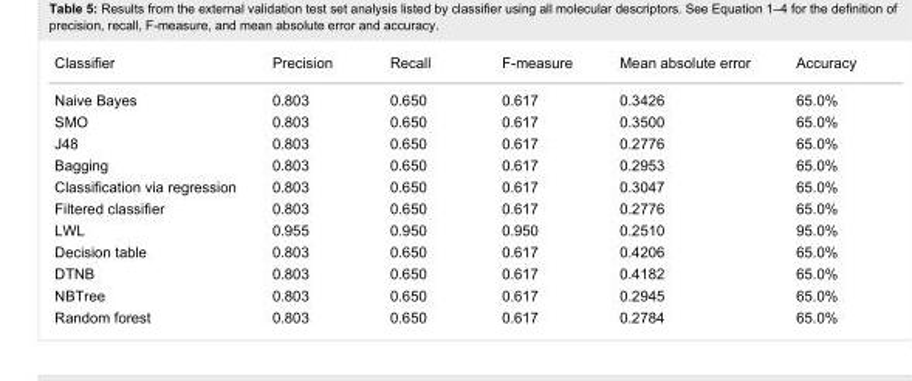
<table><tbody><tr><td>Classifier</td><td>Precision</td><td>Recall</td><td>F-measure</td><td>Mean absolute error</td><td>Accuracy</td></tr><tr><td>Naive Bayes</td><td>0.803</td><td>0.650</td><td>0.617</td><td>0.3426</td><td>65.0%</td></tr><tr><td>SMO</td><td>0.803</td><td>0.650</td><td>0.617</td><td>0.3500</td><td>65.0%</td></tr><tr><td>J48</td><td>0.803</td><td>0.650</td><td>0.617</td><td>0.2776</td><td>65.0%</td></tr><tr><td>Bagging</td><td>0.803</td><td>0.650</td><td>0.617</td><td>0.2953</td><td>65.0%</td></tr><tr><td>Classification via regression</td><td>0.803</td><td>0.650</td><td>0.617</td><td>0.3047</td><td>65.0%</td></tr><tr><td>Filtered classifier</td><td>0.803</td><td>0.650</td><td>0.617</td><td>0.2776</td><td>65.0%</td></tr><tr><td>LWL</td><td>0.955</td><td>0.950</td><td>0.950</td><td>0.2510</td><td>95.0%</td></tr><tr><td>Decision table</td><td>0.803</td><td>0.650</td><td>0.617</td><td>0.4206</td><td>65.0%</td></tr><tr><td>DTNB</td><td>0.803</td><td>0.650</td><td>0.617</td><td>0.4182</td><td>65.0%</td></tr><tr><td>NBTree</td><td>0.803</td><td>0.650</td><td>0.617</td><td>0.2945</td><td>65.0%</td></tr><tr><td>Random forest</td><td>0.803</td><td>0.650</td><td>0.617</td><td>0.2784</td><td>65.0%</td></tr></tbody></table>